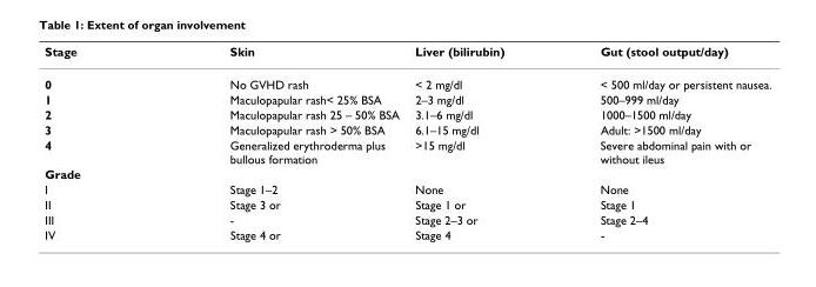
<table><thead><tr><td>Stage</td><td>Skin</td><td>Liver (bilirubin)</td><td>Gut (stool output/day)</td></tr></thead><tbody><tr><td>0</td><td>No GVHD rash</td><td>&lt; 2 mg/dl</td><td>&lt; 500 ml/day or persistent nausea.</td></tr><tr><td>1</td><td>Maculopapular rash&lt; 25% BSA</td><td>2–3 mg/dl</td><td>500–999 ml/day</td></tr><tr><td>2</td><td>Maculopapular rash 25 – 50% BSA</td><td>3.1–6 mg/dl</td><td>1000–1500 ml/day</td></tr><tr><td>3</td><td>Maculopapular rash &gt; 50% BSA</td><td>6.1–15 mg/dl</td><td>Adult: &gt;1500 ml/day</td></tr><tr><td>4</td><td>Generalized erythroderma plus bullous formation</td><td>&gt;15 mg/dl</td><td>Severe abdominal pain with or without ileus</td></tr><tr><td colspan="4">Grade</td></tr><tr><td>I</td><td>Stage 1–2</td><td>None</td><td>None</td></tr><tr><td>II</td><td>Stage 3 or</td><td>Stage 1 or</td><td>Stage 1</td></tr><tr><td>III</td><td>-</td><td>Stage 2–3 or</td><td>Stage 2–4</td></tr><tr><td>IV</td><td>Stage 4 or</td><td>Stage 4</td><td>-</td></tr></tbody></table>